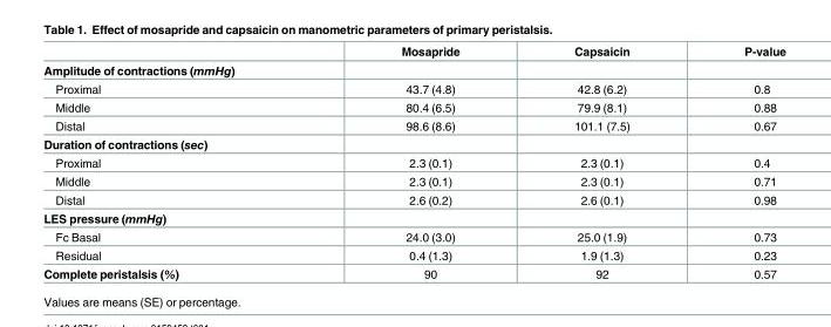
<table><thead><tr><td></td><td>Mosapride</td><td>Capsaicin</td><td>P-value</td></tr></thead><tbody><tr><td colspan="4">Amplitude of contractions (mmHg)</td></tr><tr><td>Proximal</td><td>43.7 (4.8)</td><td>42.8 (6.2)</td><td>0.8</td></tr><tr><td>Middle</td><td>80.4 (6.5)</td><td>79.9 (8.1)</td><td>0.88</td></tr><tr><td>Distal</td><td>98.6 (8.6)</td><td>101.1 (7.5)</td><td>0.67</td></tr><tr><td colspan="4">Duration of contractions (sec)</td></tr><tr><td>Proximal</td><td>2.3 (0.1)</td><td>2.3 (0.1)</td><td>0.4</td></tr><tr><td>Middle</td><td>2.3 (0.1)</td><td>2.3 (0.1)</td><td>0.71</td></tr><tr><td>Distal</td><td>2.6 (0.2)</td><td>2.6 (0.1)</td><td>0.98</td></tr><tr><td colspan="4">LES pressure (mmHg)</td></tr><tr><td>Fc Basal</td><td>24.0 (3.0)</td><td>25.0 (1.9)</td><td>0.73</td></tr><tr><td>Residual</td><td>0.4 (1.3)</td><td>1.9 (1.3)</td><td>0.23</td></tr><tr><td>Complete peristalsis (%)</td><td>90</td><td>92</td><td>0.57</td></tr></tbody></table>